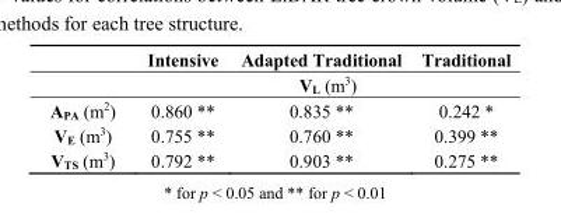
<table><thead><tr><td rowspan="2"></td><td>Intensive</td><td>Adapted Traditional</td><td>Traditional</td></tr><tr><td colspan="3">V<sub>L</sub> (m<sup>3</sup>)</td></tr></thead><tbody><tr><td>A<sub>PA</sub> (m<sup>2</sup>)</td><td>0.860 **</td><td>0.835 **</td><td>0.242 *</td></tr><tr><td>V<sub>E</sub> (m<sup>3</sup>)</td><td>0.755 **</td><td>0.760 **</td><td>0.399 **</td></tr><tr><td>V<sub>TS</sub> (m<sup>3</sup>)</td><td>0.792 **</td><td>0.903 **</td><td>0.275 **</td></tr></tbody></table>